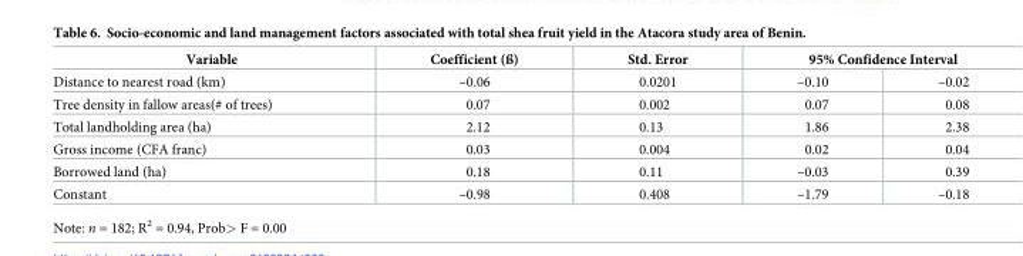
<table><thead><tr><td rowspan="2">Variable Distance to nearest road (km)</td><td rowspan="2">Coefficient (ß) –0.06</td><td rowspan="2">Std. Error 0.0201</td><td colspan="2">95% Confidence Interval</td></tr><tr><td>–0.10</td><td>–0.02</td></tr></thead><tbody><tr><td>Tree density in fallow areas(# of trees)</td><td>0.07</td><td>0.002</td><td>0.07</td><td>0.08</td></tr><tr><td>Total landholding area (ha)</td><td>2.12</td><td>0.13</td><td>1.86</td><td>2.38</td></tr><tr><td>Gross income (CFA franc)</td><td>0.03</td><td>0.004</td><td>0.02</td><td>0.04</td></tr><tr><td>Borrowed land (ha)</td><td>0.18</td><td>0.11</td><td>–0.03</td><td>0.39</td></tr><tr><td>Constant</td><td>–0.98</td><td>0.408</td><td>–1.79</td><td>–0.18</td></tr></tbody></table>